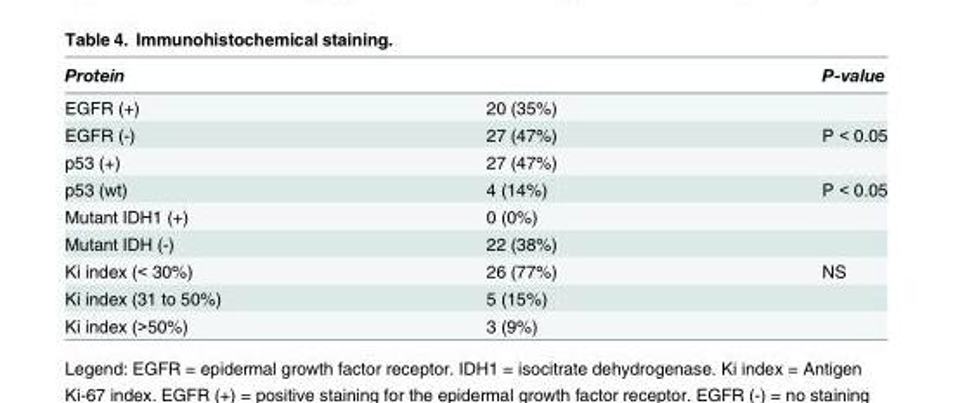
<table><thead><tr><td>Protein</td><td></td><td>P-value</td></tr></thead><tbody><tr><td>EGFR (+)</td><td>20 (35%)</td><td></td></tr><tr><td>EGFR (-)</td><td>27 (47%)</td><td>P &lt; 0.05</td></tr><tr><td>p53 (+)</td><td>27 (47%)</td><td></td></tr><tr><td>p53 (wt)</td><td>4 (14%)</td><td>P &lt; 0.05</td></tr><tr><td>Mutant IDH1 (+)</td><td>0 (0%)</td><td></td></tr><tr><td>Mutant IDH (-)</td><td>22 (38%)</td><td></td></tr><tr><td>Ki index (&lt; 30%)</td><td>26 (77%)</td><td>NS</td></tr><tr><td>Ki index (31 to 50%)</td><td>5 (15%)</td><td></td></tr><tr><td>Ki index (&gt;50%)</td><td>3 (9%)</td><td></td></tr></tbody></table>